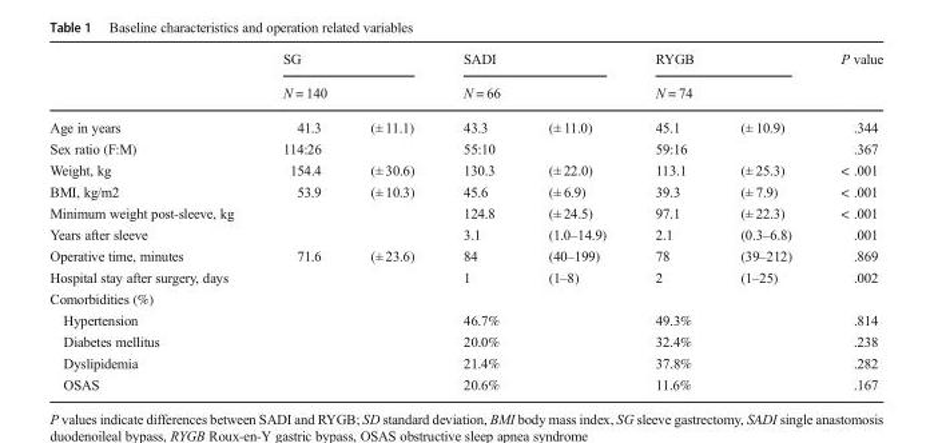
<table><thead><tr><td rowspan="3">Age in years</td><td rowspan="2" colspan="2">SG N = 140</td><td rowspan="2" colspan="2">SADI N = 66</td><td rowspan="2" colspan="2">RYGB N = 74</td><td rowspan="3">P value .344</td></tr><tr></tr><tr><td>41.3</td><td>(± 11.1)</td><td>43.3</td><td>(± 11.0)</td><td>45.1</td><td>(± 10.9)</td></tr></thead><tbody><tr><td>Sex ratio (F:M)</td><td>114:26</td><td></td><td>55:10</td><td></td><td>59:16</td><td></td><td>.367</td></tr><tr><td>Weight, kg</td><td>154.4</td><td>(± 30.6)</td><td>130.3</td><td>(± 22.0)</td><td>113.1</td><td>(± 25.3)</td><td>&lt; .001</td></tr><tr><td>BMI, kg/m2</td><td>53.9</td><td>(± 10.3)</td><td>45.6</td><td>(± 6.9)</td><td>39.3</td><td>(± 7.9)</td><td>&lt; .001</td></tr><tr><td>Minimum weight post-sleeve, kg</td><td></td><td></td><td>124.8</td><td>(± 24.5)</td><td>97.1</td><td>(± 22.3)</td><td>&lt; .001</td></tr><tr><td>Years after sleeve</td><td></td><td></td><td>3.1</td><td>(1.0–14.9)</td><td>2.1</td><td>(0.3–6.8)</td><td>.001</td></tr><tr><td>Operative time, minutes</td><td>71.6</td><td>(± 23.6)</td><td>84</td><td>(40–199)</td><td>78</td><td>(39–212)</td><td>.869</td></tr><tr><td>Hospital stay after surgery, days</td><td></td><td></td><td>1</td><td>(1–8)</td><td>2</td><td>(1–25)</td><td>.002</td></tr><tr><td colspan="8">Comorbidities (%)</td></tr><tr><td>Hypertension</td><td></td><td></td><td>46.7%</td><td></td><td>49.3%</td><td></td><td>.814</td></tr><tr><td>Diabetes mellitus</td><td></td><td></td><td>20.0%</td><td></td><td>32.4%</td><td></td><td>.238</td></tr><tr><td>Dyslipidemia</td><td></td><td></td><td>21.4%</td><td></td><td>37.8%</td><td></td><td>.282</td></tr><tr><td>OSAS</td><td></td><td></td><td>20.6%</td><td></td><td>11.6%</td><td></td><td>.167</td></tr></tbody></table>